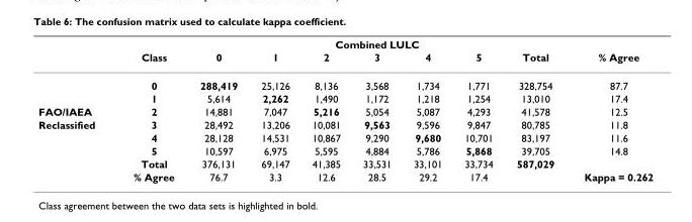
<table><thead><tr><td rowspan="2"></td><td rowspan="2">Class</td><td colspan="7">Combined LULC</td><td rowspan="2">% Agree</td></tr><tr><td>0</td><td>1</td><td>2</td><td>3</td><td>4</td><td>5</td><td>Total</td></tr></thead><tbody><tr><td></td><td>0</td><td>288,419</td><td>25,126</td><td>8,136</td><td>3,568</td><td>1,734</td><td>1,771</td><td>328,754</td><td>87.7</td></tr><tr><td></td><td>1</td><td>5,614</td><td>2,262</td><td>1,490</td><td>1,172</td><td>1,218</td><td>1,254</td><td>13,010</td><td>17.4</td></tr><tr><td>FAO/IAEA</td><td>2</td><td>14,881</td><td>7,047</td><td>5,216</td><td>5,054</td><td>5,087</td><td>4,293</td><td>41,578</td><td>12.5</td></tr><tr><td rowspan="5">Reclassified</td><td>3</td><td>28,492</td><td>13,206</td><td>10,081</td><td>9,563</td><td>9,596</td><td>9,847</td><td>80,785</td><td>11.8</td></tr><tr><td>4</td><td>28,128</td><td>14,531</td><td>10,867</td><td>9,290</td><td>9,680</td><td>10,701</td><td>83,197</td><td>11.6</td></tr><tr><td>5</td><td>10,597</td><td>6,975</td><td>5,595</td><td>4,884</td><td>5,786</td><td>5,868</td><td>39,705</td><td>14.8</td></tr><tr><td>Total</td><td>376,131</td><td>69,147</td><td>41,385</td><td>33,531</td><td>33,101</td><td>33,734</td><td>587,029</td><td></td></tr><tr><td>% Agree</td><td>76.7</td><td>3.3</td><td>12.6</td><td>28.5</td><td>29.2</td><td>17.4</td><td></td><td>Kappa = 0.262</td></tr></tbody></table>